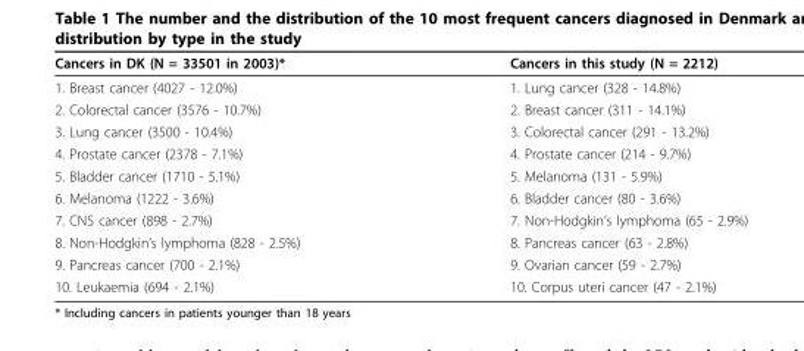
<table><thead><tr><td>Cancers in DK (N = 33501 in 2003)*</td><td>Cancers in this study (N = 2212)</td></tr></thead><tbody><tr><td>1. Breast cancer (4027 - 12.0%)</td><td>1. Lung cancer (328 - 14.8%)</td></tr><tr><td>2. Colorectal cancer (3576 - 10.7%)</td><td>2. Breast cancer (311 - 14.1%)</td></tr><tr><td>3. Lung cancer (3500 - 10.4%)</td><td>3. Colorectal cancer (291 - 13.2%)</td></tr><tr><td>4. Prostate cancer (2378 - 7.1%)</td><td>4. Prostate cancer (214 - 9.7%)</td></tr><tr><td>5. Bladder cancer (1710 - 5.1%)</td><td>5. Melanoma (131 - 5.9%)</td></tr><tr><td>6. Melanoma (1222 - 3.6%)</td><td>6. Bladder cancer (80 - 3.6%)</td></tr><tr><td>7. CNS cancer (898 - 2.7%)</td><td>7. Non-Hodgkin’s lymphoma (65 - 2.9%)</td></tr><tr><td>8. Non-Hodgkin’s lymphoma (828 - 2.5%)</td><td>8. Pancreas cancer (63 - 2.8%)</td></tr><tr><td>9. Pancreas cancer (700 - 2.1%)</td><td>9. Ovarian cancer (59 - 2.7%)</td></tr><tr><td>10. Leukaemia (694 - 2.1%)</td><td>10. Corpus uteri cancer (47 - 2.1%)</td></tr></tbody></table>